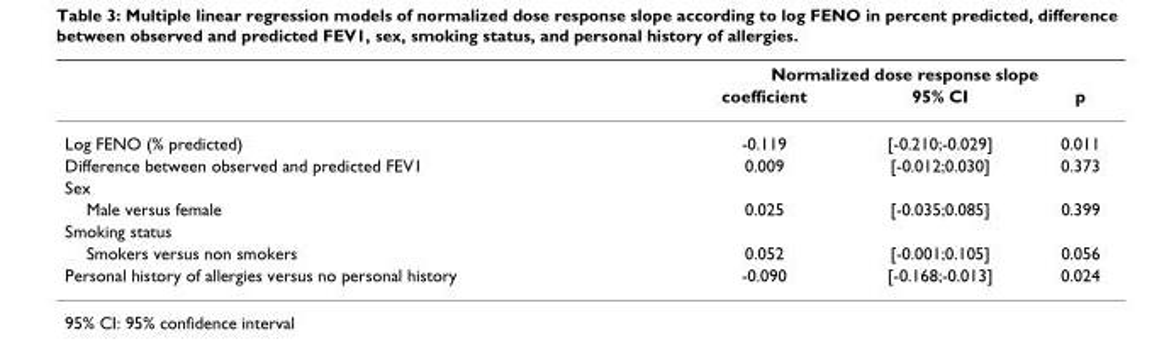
<table><thead><tr><td rowspan="2"></td><td colspan="3">Normalized dose response slope</td></tr><tr><td>coefficient</td><td>95% CI</td><td>p</td></tr></thead><tbody><tr><td>Log FENO (% predicted)</td><td>-0.119</td><td>[-0.210;-0.029]</td><td>0.011</td></tr><tr><td>Difference between observed and predicted FEV1</td><td>0.009</td><td>[-0.012;0.030]</td><td>0.373</td></tr><tr><td colspan="4">Sex</td></tr><tr><td>Male versus female</td><td>0.025</td><td>[-0.035;0.085]</td><td>0.399</td></tr><tr><td colspan="4">Smoking status</td></tr><tr><td>Smokers versus non smokers</td><td>0.052</td><td>[-0.001;0.105]</td><td>0.056</td></tr><tr><td>Personal history of allergies versus no personal history</td><td>-0.090</td><td>[-0.168;-0.013]</td><td>0.024</td></tr></tbody></table>